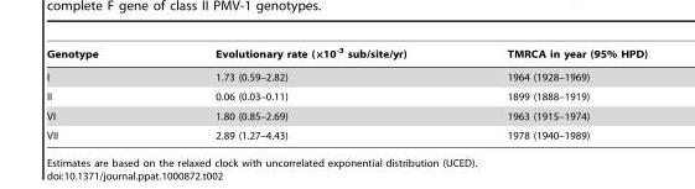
<table><thead><tr><td>Genotype</td><td>Evolutionary rate (×10<sup>-3</sup> sub/site/yr)</td><td>TMRCA in year (95% HPD)</td></tr></thead><tbody><tr><td>I</td><td>1.73 (0.59–2.82)</td><td>1964 (1928–1969)</td></tr><tr><td>II</td><td>0.06 (0.03–0.11)</td><td>1899 (1888–1919)</td></tr><tr><td>VI</td><td>1.80 (0.85–2.69)</td><td>1963 (1915–1974)</td></tr><tr><td>VII</td><td>2.89 (1.27–4.43)</td><td>1978 (1940–1989)</td></tr></tbody></table>